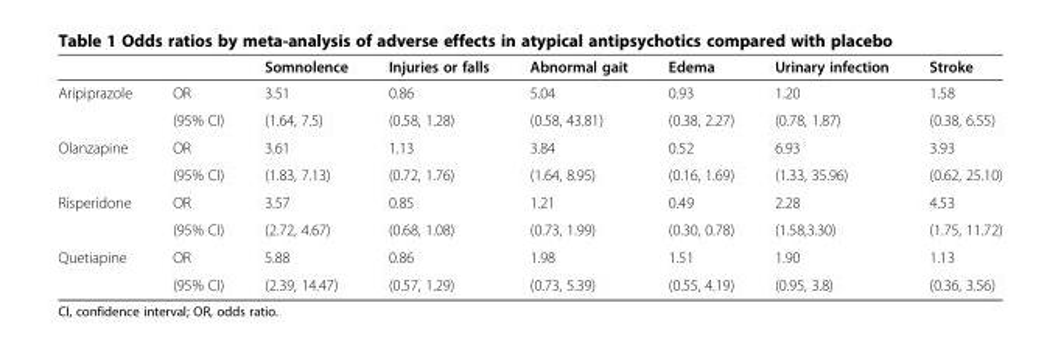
<table><thead><tr><td></td><td></td><td>Somnolence</td><td>Injuries or falls</td><td>Abnormal gait</td><td>Edema</td><td>Urinary infection</td><td>Stroke</td></tr></thead><tbody><tr><td rowspan="2">Aripiprazole</td><td>OR</td><td>3.51</td><td>0.86</td><td>5.04</td><td>0.93</td><td>1.20</td><td>1.58</td></tr><tr><td>(95% CI)</td><td>(1.64, 7.5)</td><td>(0.58, 1.28)</td><td>(0.58, 43.81)</td><td>(0.38, 2.27)</td><td>(0.78, 1.87)</td><td>(0.38, 6.55)</td></tr><tr><td rowspan="2">Olanzapine</td><td>OR</td><td>3.61</td><td>1.13</td><td>3.84</td><td>0.52</td><td>6.93</td><td>3.93</td></tr><tr><td>(95% CI)</td><td>(1.83, 7.13)</td><td>(0.72, 1.76)</td><td>(1.64, 8.95)</td><td>(0.16, 1.69)</td><td>(1.33, 35.96)</td><td>(0.62, 25.10)</td></tr><tr><td rowspan="2">Risperidone</td><td>OR</td><td>3.57</td><td>0.85</td><td>1.21</td><td>0.49</td><td>2.28</td><td>4.53</td></tr><tr><td>(95% CI)</td><td>(2.72, 4.67)</td><td>(0.68, 1.08)</td><td>(0.73, 1.99)</td><td>(0.30, 0.78)</td><td>(1.58,3.30)</td><td>(1.75, 11.72)</td></tr><tr><td rowspan="2">Quetiapine</td><td>OR</td><td>5.88</td><td>0.86</td><td>1.98</td><td>1.51</td><td>1.90</td><td>1.13</td></tr><tr><td>(95% CI)</td><td>(2.39, 14.47)</td><td>(0.57, 1.29)</td><td>(0.73, 5.39)</td><td>(0.55, 4.19)</td><td>(0.95, 3.8)</td><td>(0.36, 3.56)</td></tr></tbody></table>